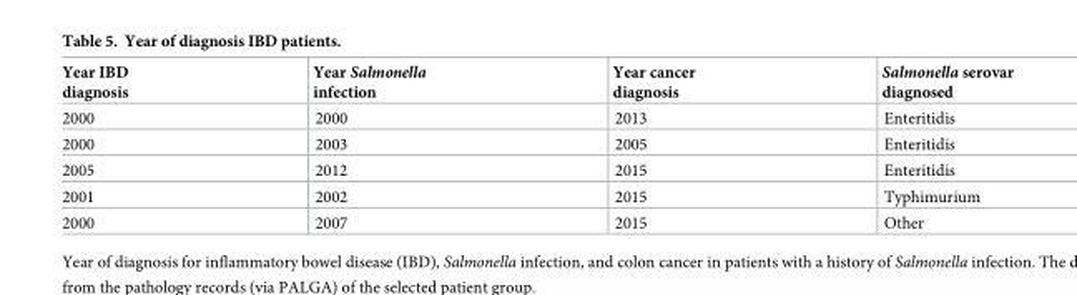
<table><thead><tr><td>Year IBD diagnosis</td><td>Year Salmonella infection</td><td>Year cancer diagnosis</td><td>Salmonella serovar diagnosed</td></tr></thead><tbody><tr><td>2000</td><td>2000</td><td>2013</td><td>Enteritidis</td></tr><tr><td>2000</td><td>2003</td><td>2005</td><td>Enteritidis</td></tr><tr><td>2005</td><td>2012</td><td>2015</td><td>Enteritidis</td></tr><tr><td>2001</td><td>2002</td><td>2015</td><td>Typhimurium</td></tr><tr><td>2000</td><td>2007</td><td>2015</td><td>Other</td></tr></tbody></table>